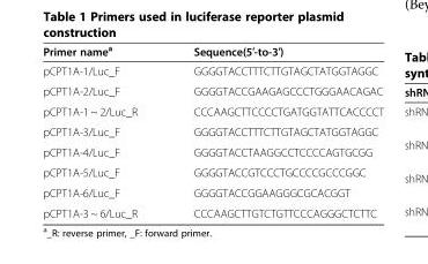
<table><thead><tr><td>Primer name<sup>a</sup></td><td>Sequence(5′-to-3′)</td></tr></thead><tbody><tr><td>pCPT1A-1/Luc_F</td><td>GGGGTACCTTTCTTGTAGCTATGGTAGGC</td></tr><tr><td>pCPT1A-2/Luc_F</td><td>GGGGTACCGAAGAGCCCTGGGAACAGAC</td></tr><tr><td>pCPT1A-1 ~ 2/Luc_R</td><td>CCCAAGCTTCCCCTGATGGTATTCACCCCT</td></tr><tr><td>pCPT1A-3/Luc_F</td><td>GGGGTACCTTTCTTGTAGCTATGGTAGGC</td></tr><tr><td>pCPT1A-4/Luc_F</td><td>GGGGTACCTAAGGCCTCCCCAGTGCGG</td></tr><tr><td>pCPT1A-5/Luc_F</td><td>GGGGTACCGTCCCTGCCCCGCCCGGC</td></tr><tr><td>pCPT1A-6/Luc_F</td><td>GGGGTACCGGAAGGGCGCACGGT</td></tr><tr><td>pCPT1A-3 ~ 6/Luc_R</td><td>CCCAAGCTTGTCTGTTCCCAGGGCTCTTC</td></tr></tbody></table>